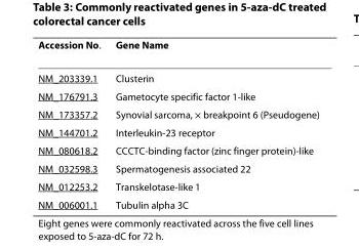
<table><thead><tr><td>Accession No.</td><td>Gene Name</td></tr></thead><tbody><tr><td>NM_203339.1</td><td>Clusterin</td></tr><tr><td>NM_176791.3</td><td>Gametocyte specific factor 1-like</td></tr><tr><td>NM_173357.2</td><td>Synovial sarcoma, × breakpoint 6 (Pseudogene)</td></tr><tr><td>NM_144701.2</td><td>Interleukin-23 receptor</td></tr><tr><td>NM_080618.2</td><td>CCCTC-binding factor (zinc finger protein)-like</td></tr><tr><td>NM_032598.3</td><td>Spermatogenesis associated 22</td></tr><tr><td>NM_012253.2</td><td>Transkelotase-like 1</td></tr><tr><td>NM_006001.1</td><td>Tubulin alpha 3C</td></tr></tbody></table>